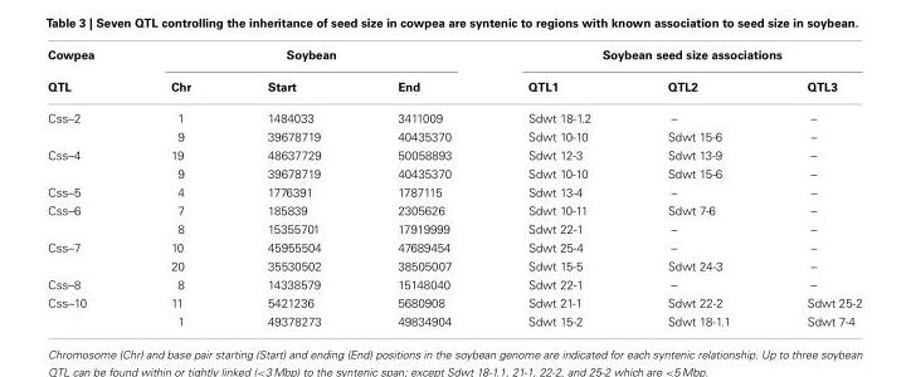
<table><thead><tr><td rowspan="2">Cowpea QTL</td><td colspan="3">Soybean</td><td colspan="3">Soybean seed size associations</td></tr><tr><td>Chr</td><td>Start</td><td>End</td><td>QTL1</td><td>QTL2</td><td>QTL3</td></tr></thead><tbody><tr><td rowspan="2">Css–2</td><td>1</td><td>1484033</td><td>3411009</td><td>Sdwt 18-1.2</td><td>–</td><td>–</td></tr><tr><td>9</td><td>39678719</td><td>40435370</td><td>Sdwt 10-10</td><td>Sdwt 15-6</td><td>–</td></tr><tr><td rowspan="2">Css–4</td><td>19</td><td>48637729</td><td>50058893</td><td>Sdwt 12-3</td><td>Sdwt 13-9</td><td>–</td></tr><tr><td>9</td><td>39678719</td><td>40435370</td><td>Sdwt 10-10</td><td>Sdwt 15-6</td><td>–</td></tr><tr><td>Css–5</td><td>4</td><td>1776391</td><td>1787115</td><td>Sdwt 13-4</td><td>–</td><td>–</td></tr><tr><td rowspan="2">Css–6</td><td>7</td><td>185839</td><td>2305626</td><td>Sdwt 10-11</td><td>Sdwt 7-6</td><td>–</td></tr><tr><td>8</td><td>15355701</td><td>17919999</td><td>Sdwt 22-1</td><td>–</td><td>–</td></tr><tr><td rowspan="2">Css–7</td><td>10</td><td>45955504</td><td>47689454</td><td>Sdwt 25-4</td><td>–</td><td>–</td></tr><tr><td>20</td><td>35530502</td><td>38505007</td><td>Sdwt 15-5</td><td>Sdwt 24-3</td><td>–</td></tr><tr><td>Css–8</td><td>8</td><td>14338579</td><td>15148040</td><td>Sdwt 22-1</td><td>–</td><td>–</td></tr><tr><td rowspan="2">Css–10</td><td>11</td><td>5421236</td><td>5680908</td><td>Sdwt 21-1</td><td>Sdwt 22-2</td><td>Sdwt 25-2</td></tr><tr><td>1</td><td>49378273</td><td>49834904</td><td>Sdwt 15-2</td><td>Sdwt 18-1.1</td><td>Sdwt 7-4</td></tr></tbody></table>